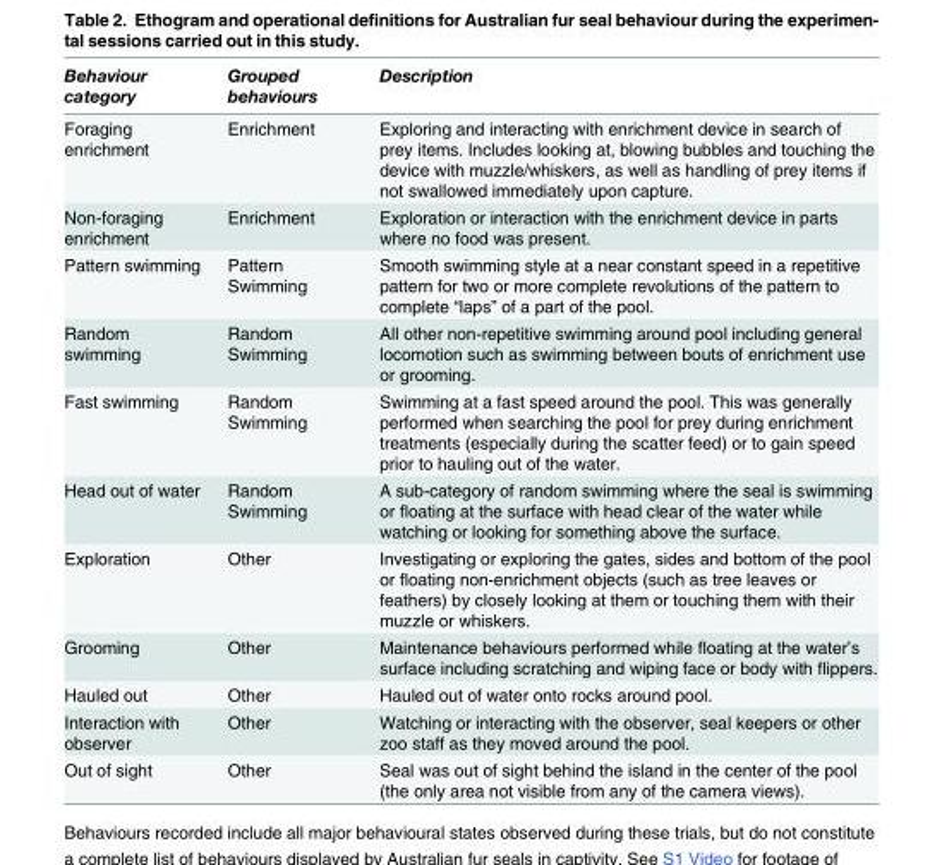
<table><thead><tr><td>Behaviour category</td><td>Grouped behaviours</td><td>Description</td></tr></thead><tbody><tr><td>Foraging enrichment</td><td>Enrichment</td><td>Exploring and interacting with enrichment device in search of prey items. Includes looking at, blowing bubbles and touching the device with muzzle/whiskers, as well as handling of prey items if not swallowed immediately upon capture.</td></tr><tr><td>Non-foraging enrichment</td><td>Enrichment</td><td>Exploration or interaction with the enrichment device in parts where no food was present.</td></tr><tr><td>Pattern swimming</td><td>Pattern Swimming</td><td>Smooth swimming style at a near constant speed in a repetitive pattern for two or more complete revolutions of the pattern to complete “laps” of a part of the pool.</td></tr><tr><td>Random swimming</td><td>Random Swimming</td><td>All other non-repetitive swimming around pool including general locomotion such as swimming between bouts of enrichment use or grooming.</td></tr><tr><td>Fast swimming</td><td>Random Swimming</td><td>Swimming at a fast speed around the pool. This was generally performed when searching the pool for prey during enrichment treatments (especially during the scatter feed) or to gain speed prior to hauling out of the water.</td></tr><tr><td>Head out of water</td><td>Random Swimming</td><td>A sub-category of random swimming where the seal is swimming or floating at the surface with head clear of the water while watching or looking for something above the surface.</td></tr><tr><td>Exploration</td><td>Other</td><td>Investigating or exploring the gates, sides and bottom of the pool or floating non-enrichment objects (such as tree leaves or feathers) by closely looking at them or touching them with their muzzle or whiskers.</td></tr><tr><td>Grooming</td><td>Other</td><td>Maintenance behaviours performed while floating at the water’s surface including scratching and wiping face or body with flippers.</td></tr><tr><td>Hauled out</td><td>Other</td><td>Hauled out of water onto rocks around pool.</td></tr><tr><td>Interaction with observer</td><td>Other</td><td>Watching or interacting with the observer, seal keepers or other zoo staff as they moved around the pool.</td></tr><tr><td>Out of sight</td><td>Other</td><td>Seal was out of sight behind the island in the center of the pool (the only area not visible from any of the camera views).</td></tr></tbody></table>